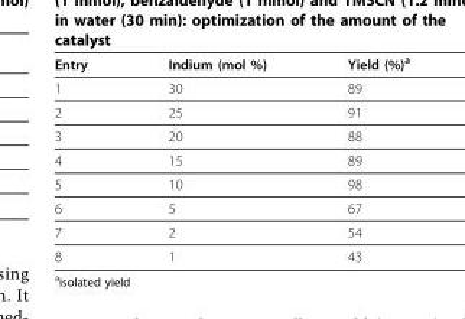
<table><thead><tr><td>Entry</td><td>Indium (mol %)</td><td>Yield (%)<sup>a</sup></td></tr></thead><tbody><tr><td>1</td><td>30</td><td>89</td></tr><tr><td>2</td><td>25</td><td>91</td></tr><tr><td>3</td><td>20</td><td>88</td></tr><tr><td>4</td><td>15</td><td>89</td></tr><tr><td>5</td><td>10</td><td>98</td></tr><tr><td>6</td><td>5</td><td>67</td></tr><tr><td>7</td><td>2</td><td>54</td></tr><tr><td>8</td><td>1</td><td>43</td></tr></tbody></table>